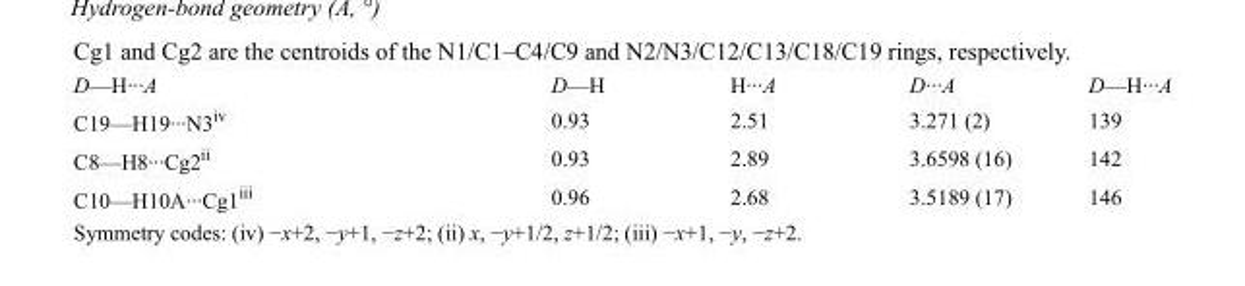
<table><tbody><tr><td>D—H···A</td><td>D—H</td><td>H···A</td><td>D···A</td><td>D—H···A</td></tr><tr><td>C19—H19···N3<sup>iv</sup></td><td>0.93</td><td>2.51</td><td>3.271 (2)</td><td>139</td></tr><tr><td>C8—H8···Cg2<sup>ii</sup></td><td>0.93</td><td>2.89</td><td>3.6598 (16)</td><td>142</td></tr><tr><td>C10—H10A···Cg1<sup>iii</sup></td><td>0.96</td><td>2.68</td><td>3.5189 (17)</td><td>146</td></tr></tbody></table>